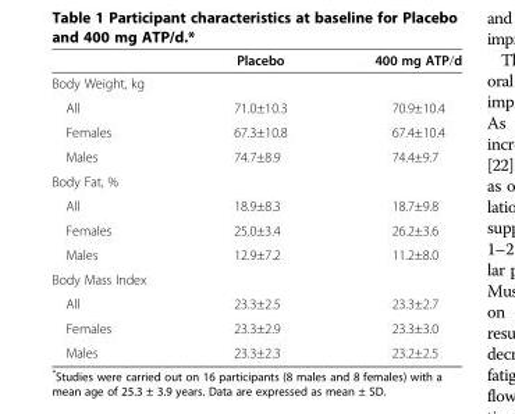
<table><thead><tr><td></td><td>Placebo</td><td>400 mg ATP/d</td></tr></thead><tbody><tr><td colspan="3">Body Weight, kg</td></tr><tr><td>All</td><td>71.0±10.3</td><td>70.9±10.4</td></tr><tr><td>Females</td><td>67.3±10.8</td><td>67.4±10.4</td></tr><tr><td>Males</td><td>74.7±8.9</td><td>74.4±9.7</td></tr><tr><td colspan="3">Body Fat, %</td></tr><tr><td>All</td><td>18.9±8.3</td><td>18.7±9.8</td></tr><tr><td>Females</td><td>25.0±3.4</td><td>26.2±3.6</td></tr><tr><td>Males</td><td>12.9±7.2</td><td>11.2±8.0</td></tr><tr><td colspan="3">Body Mass Index</td></tr><tr><td>All</td><td>23.3±2.5</td><td>23.3±2.7</td></tr><tr><td>Females</td><td>23.3±2.9</td><td>23.3±3.0</td></tr><tr><td>Males</td><td>23.3±2.3</td><td>23.2±2.5</td></tr></tbody></table>